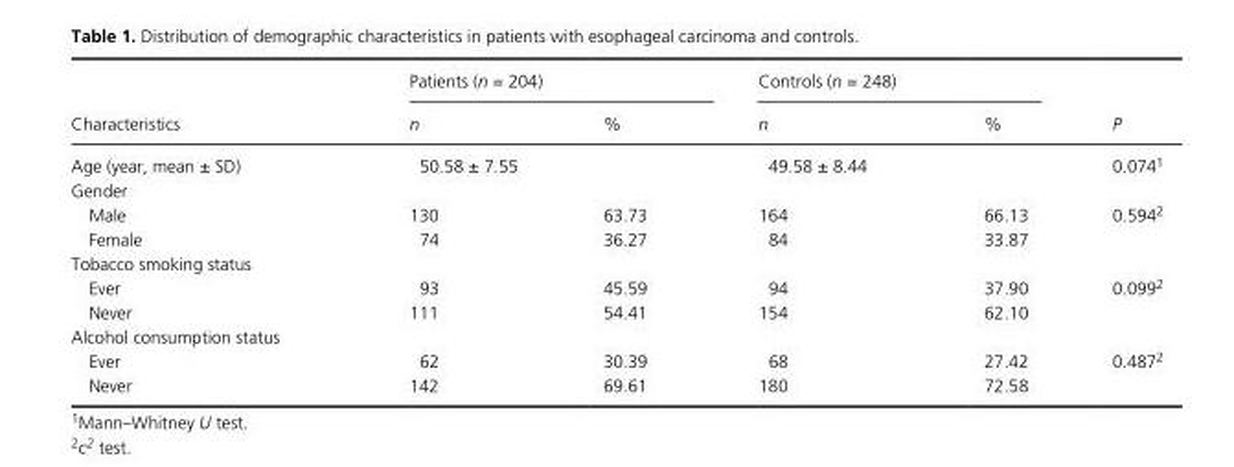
<table><thead><tr><td rowspan="2">Characteristics</td><td colspan="2">Patients (n = 204)</td><td colspan="2">Controls (n = 248)</td><td rowspan="2">P</td></tr><tr><td>n</td><td>%</td><td>n</td><td>%</td></tr></thead><tbody><tr><td>Age (year, mean ± SD)</td><td colspan="2">50.58 ± 7.55</td><td colspan="2">49.58 ± 8.44</td><td>0.0741</td></tr><tr><td colspan="6">Gender</td></tr><tr><td>Male</td><td>130</td><td>63.73</td><td>164</td><td>66.13</td><td rowspan="2">0.5942</td></tr><tr><td>Female</td><td>74</td><td>36.27</td><td>84</td><td>33.87</td></tr><tr><td colspan="6">Tobacco smoking status</td></tr><tr><td>Ever</td><td>93</td><td>45.59</td><td>94</td><td>37.90</td><td rowspan="2">0.0992</td></tr><tr><td>Never</td><td>111</td><td>54.41</td><td>154</td><td>62.10</td></tr><tr><td colspan="6">Alcohol consumption status</td></tr><tr><td>Ever</td><td>62</td><td>30.39</td><td>68</td><td>27.42</td><td rowspan="2">0.4872</td></tr><tr><td>Never</td><td>142</td><td>69.61</td><td>180</td><td>72.58</td></tr></tbody></table>